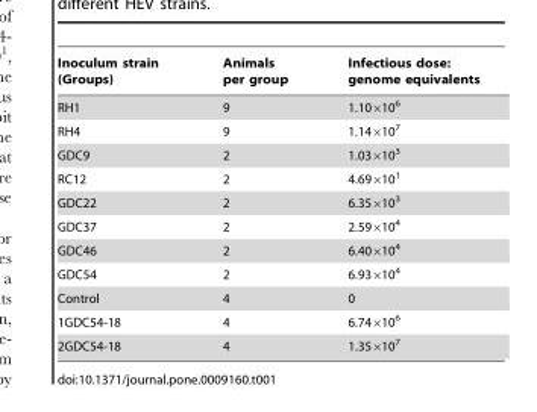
<table><thead><tr><td>Inoculum strain (Groups)</td><td>Animals per group</td><td>Infectious dose: genome equivalents</td></tr></thead><tbody><tr><td>RH1</td><td>9</td><td>1.10×10<sup>6</sup></td></tr><tr><td>RH4</td><td>9</td><td>1.14×10<sup>7</sup></td></tr><tr><td>GDC9</td><td>2</td><td>1.03×10<sup>3</sup></td></tr><tr><td>RC12</td><td>2</td><td>4.69×10<sup>1</sup></td></tr><tr><td>GDC22</td><td>2</td><td>6.35×10<sup>3</sup></td></tr><tr><td>GDC37</td><td>2</td><td>2.59×10<sup>4</sup></td></tr><tr><td>GDC46</td><td>2</td><td>6.40×10<sup>4</sup></td></tr><tr><td>GDC54</td><td>2</td><td>6.93×10<sup>4</sup></td></tr><tr><td>Control</td><td>4</td><td>0</td></tr><tr><td>1GDC54-18</td><td>4</td><td>6.74×10<sup>6</sup></td></tr><tr><td>2GDC54-18</td><td>4</td><td>1.35×10<sup>7</sup></td></tr></tbody></table>